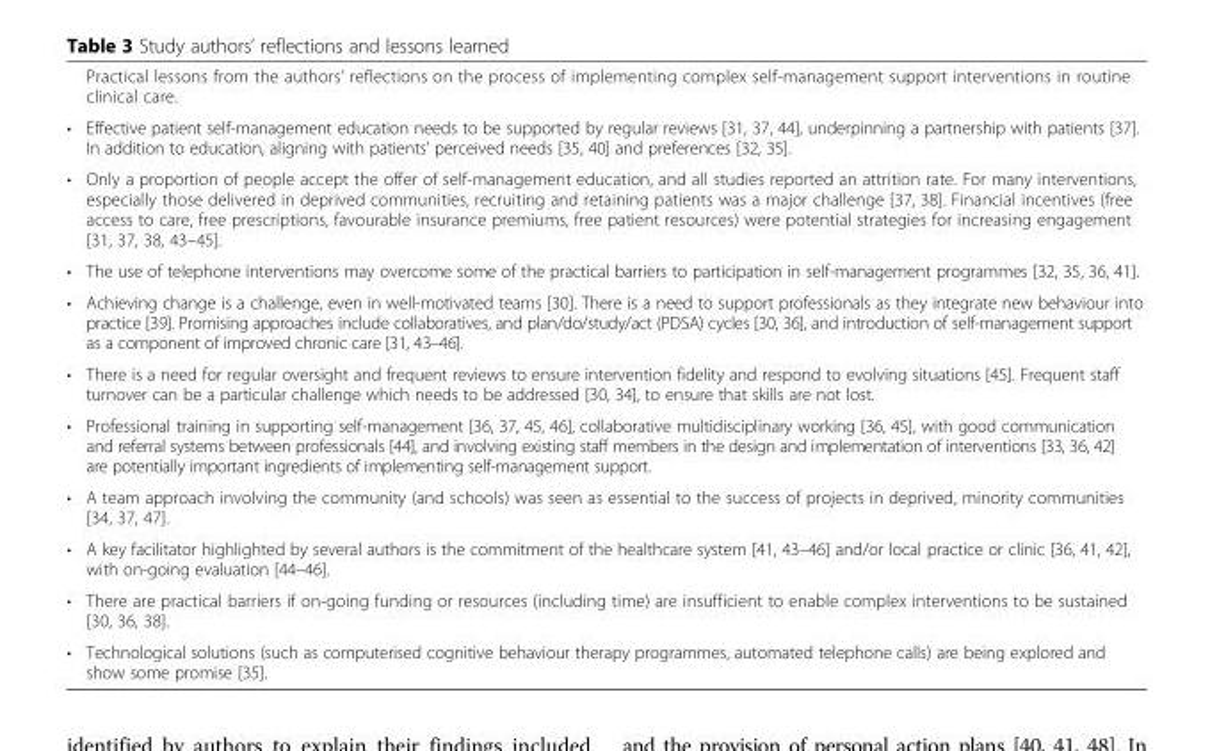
<table><thead><tr><td></td><td>Practical lessons from the authors’ reflections on the process of implementing complex self-management support interventions in routine clinical care.</td></tr></thead><tbody><tr><td>•</td><td>Effective patient self-management education needs to be supported by regular reviews [31, 37, 44], underpinning a partnership with patients [37]. In addition to education, aligning with patients’ perceived needs [35, 40] and preferences [32, 35].</td></tr><tr><td>•</td><td>Only a proportion of people accept the offer of self-management education, and all studies reported an attrition rate. For many interventions, especially those delivered in deprived communities, recruiting and retaining patients was a major challenge [37, 38]. Financial incentives (free access to care, free prescriptions, favourable insurance premiums, free patient resources) were potential strategies for increasing engagement [31, 37, 38, 43–45].</td></tr><tr><td>•</td><td>The use of telephone interventions may overcome some of the practical barriers to participation in self-management programmes [32, 35, 36, 41].</td></tr><tr><td>•</td><td>Achieving change is a challenge, even in well-motivated teams [30]. There is a need to support professionals as they integrate new behaviour into practice [39]. Promising approaches include collaboratives, and plan/do/study/act (PDSA) cycles [30, 36], and introduction of self-management support as a component of improved chronic care [31, 43–46].</td></tr><tr><td>•</td><td>There is a need for regular oversight and frequent reviews to ensure intervention fidelity and respond to evolving situations [45]. Frequent staff turnover can be a particular challenge which needs to be addressed [30, 34], to ensure that skills are not lost.</td></tr><tr><td>•</td><td>Professional training in supporting self-management [36, 37, 45, 46], collaborative multidisciplinary working [36, 45], with good communication and referral systems between professionals [44], and involving existing staff members in the design and implementation of interventions [33, 36, 42] are potentially important ingredients of implementing self-management support.</td></tr><tr><td>•</td><td>A team approach involving the community (and schools) was seen as essential to the success of projects in deprived, minority communities [34, 37, 47].</td></tr><tr><td>•</td><td>A key facilitator highlighted by several authors is the commitment of the healthcare system [41, 43–46] and/or local practice or clinic [36, 41, 42], with on-going evaluation [44–46].</td></tr><tr><td>•</td><td>There are practical barriers if on-going funding or resources (including time) are insufficient to enable complex interventions to be sustained [30, 36, 38].</td></tr><tr><td>•</td><td>Technological solutions (such as computerised cognitive behaviour therapy programmes, automated telephone calls) are being explored and show some promise [35].</td></tr></tbody></table>